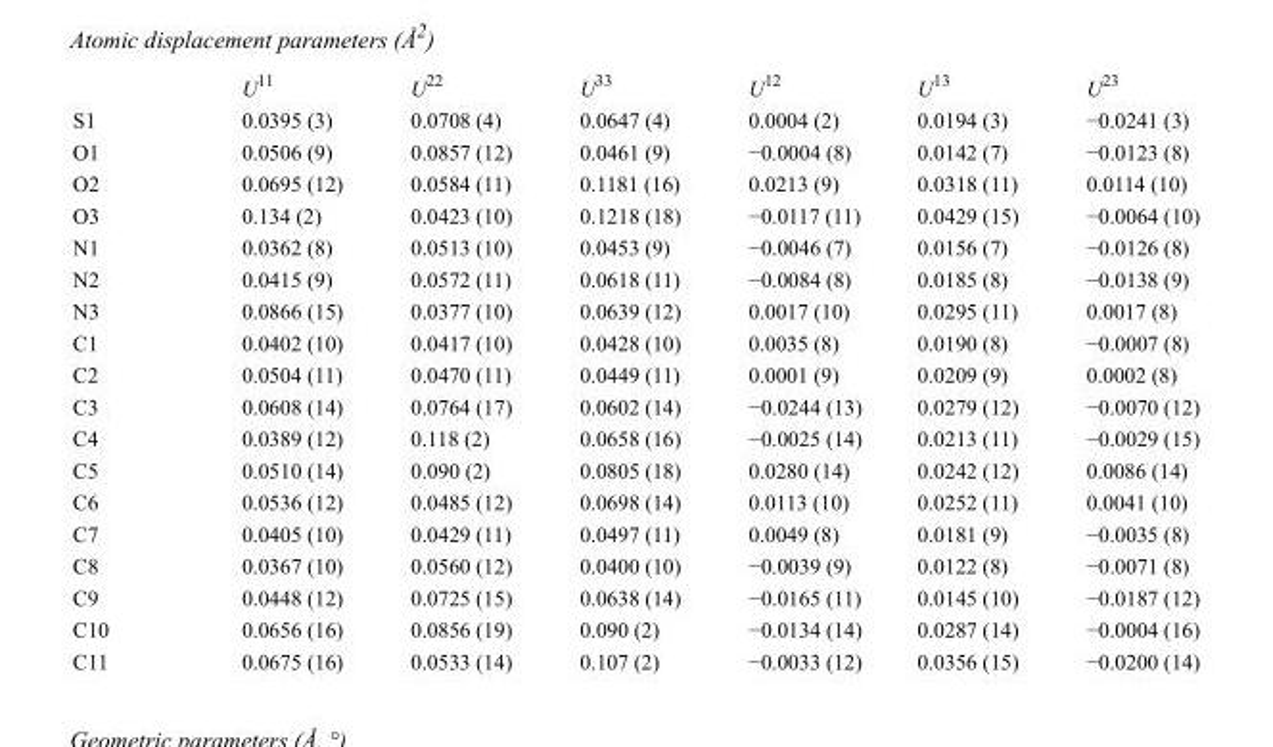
<table><thead><tr><td></td><td>U<sup>11</sup></td><td>U<sup>22</sup></td><td>U<sup>33</sup></td><td>U<sup>12</sup></td><td>U<sup>13</sup></td><td>U<sup>23</sup></td></tr></thead><tbody><tr><td>S1</td><td>0.0395 (3)</td><td>0.0708 (4)</td><td>0.0647 (4)</td><td>0.0004 (2)</td><td>0.0194 (3)</td><td>−0.0241 (3)</td></tr><tr><td>O1</td><td>0.0506 (9)</td><td>0.0857 (12)</td><td>0.0461 (9)</td><td>−0.0004 (8)</td><td>0.0142 (7)</td><td>−0.0123 (8)</td></tr><tr><td>O2</td><td>0.0695 (12)</td><td>0.0584 (11)</td><td>0.1181 (16)</td><td>0.0213 (9)</td><td>0.0318 (11)</td><td>0.0114 (10)</td></tr><tr><td>O3</td><td>0.134 (2)</td><td>0.0423 (10)</td><td>0.1218 (18)</td><td>−0.0117 (11)</td><td>0.0429 (15)</td><td>−0.0064 (10)</td></tr><tr><td>N1</td><td>0.0362 (8)</td><td>0.0513 (10)</td><td>0.0453 (9)</td><td>−0.0046 (7)</td><td>0.0156 (7)</td><td>−0.0126 (8)</td></tr><tr><td>N2</td><td>0.0415 (9)</td><td>0.0572 (11)</td><td>0.0618 (11)</td><td>−0.0084 (8)</td><td>0.0185 (8)</td><td>−0.0138 (9)</td></tr><tr><td>N3</td><td>0.0866 (15)</td><td>0.0377 (10)</td><td>0.0639 (12)</td><td>0.0017 (10)</td><td>0.0295 (11)</td><td>0.0017 (8)</td></tr><tr><td>C1</td><td>0.0402 (10)</td><td>0.0417 (10)</td><td>0.0428 (10)</td><td>0.0035 (8)</td><td>0.0190 (8)</td><td>−0.0007 (8)</td></tr><tr><td>C2</td><td>0.0504 (11)</td><td>0.0470 (11)</td><td>0.0449 (11)</td><td>0.0001 (9)</td><td>0.0209 (9)</td><td>0.0002 (8)</td></tr><tr><td>C3</td><td>0.0608 (14)</td><td>0.0764 (17)</td><td>0.0602 (14)</td><td>−0.0244 (13)</td><td>0.0279 (12)</td><td>−0.0070 (12)</td></tr><tr><td>C4</td><td>0.0389 (12)</td><td>0.118 (2)</td><td>0.0658 (16)</td><td>−0.0025 (14)</td><td>0.0213 (11)</td><td>−0.0029 (15)</td></tr><tr><td>C5</td><td>0.0510 (14)</td><td>0.090 (2)</td><td>0.0805 (18)</td><td>0.0280 (14)</td><td>0.0242 (12)</td><td>0.0086 (14)</td></tr><tr><td>C6</td><td>0.0536 (12)</td><td>0.0485 (12)</td><td>0.0698 (14)</td><td>0.0113 (10)</td><td>0.0252 (11)</td><td>0.0041 (10)</td></tr><tr><td>C7</td><td>0.0405 (10)</td><td>0.0429 (11)</td><td>0.0497 (11)</td><td>0.0049 (8)</td><td>0.0181 (9)</td><td>−0.0035 (8)</td></tr><tr><td>C8</td><td>0.0367 (10)</td><td>0.0560 (12)</td><td>0.0400 (10)</td><td>−0.0039 (9)</td><td>0.0122 (8)</td><td>−0.0071 (8)</td></tr><tr><td>C9</td><td>0.0448 (12)</td><td>0.0725 (15)</td><td>0.0638 (14)</td><td>−0.0165 (11)</td><td>0.0145 (10)</td><td>−0.0187 (12)</td></tr><tr><td>C10</td><td>0.0656 (16)</td><td>0.0856 (19)</td><td>0.090 (2)</td><td>−0.0134 (14)</td><td>0.0287 (14)</td><td>−0.0004 (16)</td></tr><tr><td>C11</td><td>0.0675 (16)</td><td>0.0533 (14)</td><td>0.107 (2)</td><td>−0.0033 (12)</td><td>0.0356 (15)</td><td>−0.0200 (14)</td></tr></tbody></table>